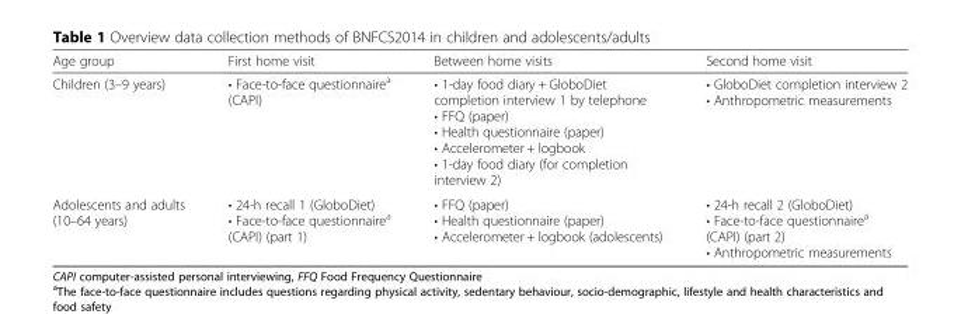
<table><thead><tr><td>Age group</td><td>First home visit</td><td>Between home visits</td><td>Second home visit</td></tr></thead><tbody><tr><td>Children (3–9 years)</td><td>• Face-to-face questionnaire<sup>a</sup> (CAPI)</td><td>• 1-day food diary + GloboDiet completion interview 1 by telephone • FFQ (paper) • Health questionnaire (paper) • Accelerometer + logbook • 1-day food diary (for completion interview 2)</td><td>• GloboDiet completion interview 2 • Anthropometric measurements</td></tr><tr><td>Adolescents and adults (10–64 years)</td><td>• 24-h recall 1 (GloboDiet) • Face-to-face questionnaire<sup>a</sup> (CAPI) (part 1)</td><td>• FFQ (paper) • Health questionnaire (paper) • Accelerometer + logbook (adolescents)</td><td>• 24-h recall 2 (GloboDiet) • Face-to-face questionnaire<sup>a</sup> (CAPI) (part 2) • Anthropometric measurements</td></tr></tbody></table>